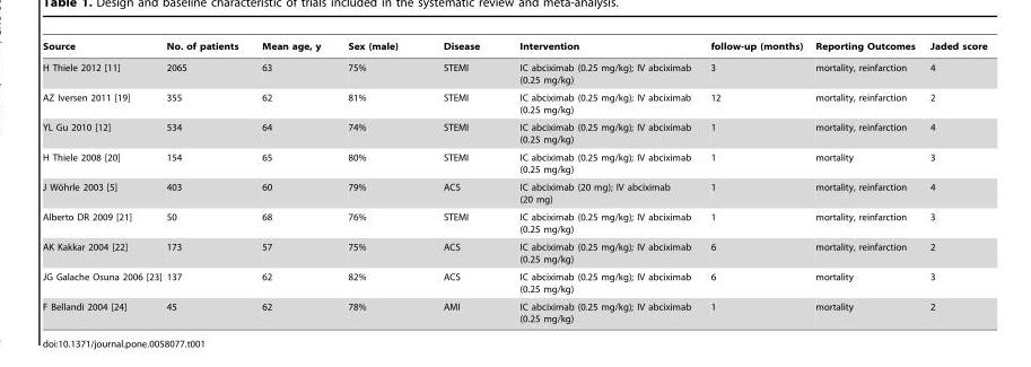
<table><thead><tr><td>Source</td><td>No. of patients</td><td>Mean age, y</td><td>Sex (male)</td><td>Disease</td><td>Intervention</td><td>follow-up (months)</td><td>Reporting Outcomes</td><td>Jaded score</td></tr></thead><tbody><tr><td>H Thiele 2012 [11]</td><td>2065</td><td>63</td><td>75%</td><td>STEMI</td><td>IC abciximab (0.25 mg/kg); IV abciximab (0.25 mg/kg)</td><td>3</td><td>mortality, reinfarction</td><td>4</td></tr><tr><td>AZ Iversen 2011 [19]</td><td>355</td><td>62</td><td>81%</td><td>STEMI</td><td>IC abciximab (0.25 mg/kg); IV abciximab (0.25 mg/kg)</td><td>12</td><td>mortality, reinfarction</td><td>2</td></tr><tr><td>YL Gu 2010 [12]</td><td>534</td><td>64</td><td>74%</td><td>STEMI</td><td>IC abciximab (0.25 mg/kg); IV abciximab (0.25 mg/kg)</td><td>1</td><td>mortality, reinfarction</td><td>4</td></tr><tr><td>H Thiele 2008 [20]</td><td>154</td><td>65</td><td>80%</td><td>STEMI</td><td>IC abciximab (0.25 mg/kg); IV abciximab (0.25 mg/kg)</td><td>1</td><td>mortality</td><td>3</td></tr><tr><td>J Wo¨hrle 2003 [5]</td><td>403</td><td>60</td><td>79%</td><td>ACS</td><td>IC abciximab (20 mg); IV abciximab (20 mg)</td><td>1</td><td>mortality, reinfarction</td><td>4</td></tr><tr><td>Alberto DR 2009 [21]</td><td>50</td><td>68</td><td>76%</td><td>STEMI</td><td>IC abciximab (0.25 mg/kg); IV abciximab (0.25 mg/kg)</td><td>1</td><td>mortality, reinfarction</td><td>3</td></tr><tr><td>AK Kakkar 2004 [22]</td><td>173</td><td>57</td><td>75%</td><td>ACS</td><td>IC abciximab (0.25 mg/kg); IV abciximab (0.25 mg/kg)</td><td>6</td><td>mortality, reinfarction</td><td>2</td></tr><tr><td>JG Galache Osuna 2006 [23]</td><td>137</td><td>62</td><td>82%</td><td>ACS</td><td>IC abciximab (0.25 mg/kg); IV abciximab (0.25 mg/kg)</td><td>6</td><td>mortality</td><td>3</td></tr><tr><td>F Bellandi 2004 [24]</td><td>45</td><td>62</td><td>78%</td><td>AMI</td><td>IC abciximab (0.25 mg/kg); IV abciximab (0.25 mg/kg)</td><td>1</td><td>mortality</td><td>2</td></tr></tbody></table>